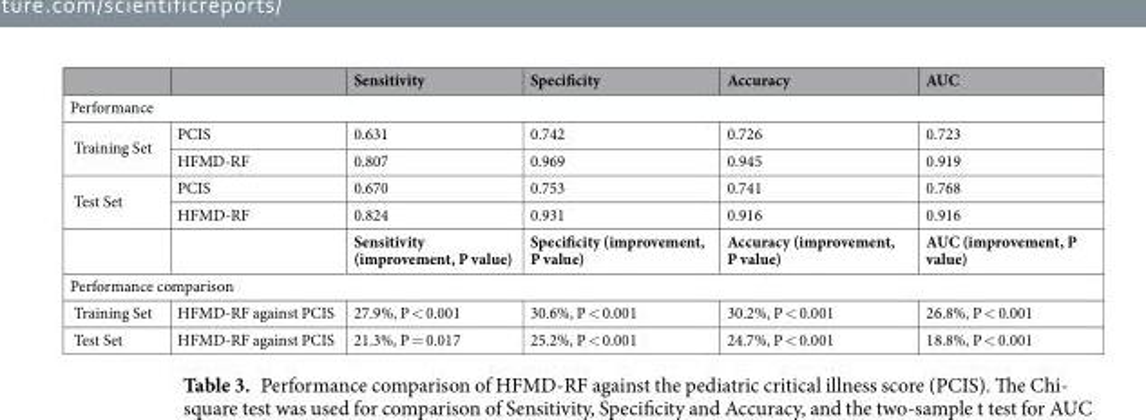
<table><thead><tr><td></td><td></td><td>Sensitivity</td><td>Specificity</td><td>Accuracy</td><td>AUC</td></tr></thead><tbody><tr><td colspan="6">Performance</td></tr><tr><td rowspan="2">Training Set</td><td>PCIS</td><td>0.631</td><td>0.742</td><td>0.726</td><td>0.723</td></tr><tr><td>HFMD-RF</td><td>0.807</td><td>0.969</td><td>0.945</td><td>0.919</td></tr><tr><td rowspan="3">Test Set</td><td>PCIS</td><td>0.670</td><td>0.753</td><td>0.741</td><td>0.768</td></tr><tr><td>HFMD-RF</td><td>0.824</td><td>0.931</td><td>0.916</td><td>0.916</td></tr><tr><td></td><td>Sensitivity (improvement, P value)</td><td>Specificity (improvement, P value)</td><td>Accuracy (improvement, P value)</td><td>AUC (improvement, P value)</td></tr><tr><td colspan="6">Performance comparison</td></tr><tr><td>Training Set</td><td>HFMD-RF against PCIS</td><td>27.9%, P &lt; 0.001</td><td>30.6%, P &lt; 0.001</td><td>30.2%, P &lt; 0.001</td><td>26.8%, P &lt; 0.001</td></tr><tr><td>Test Set</td><td>HFMD-RF against PCIS</td><td>21.3%, P = 0.017</td><td>25.2%, P &lt; 0.001</td><td>24.7%, P &lt; 0.001</td><td>18.8%, P &lt; 0.001</td></tr></tbody></table>